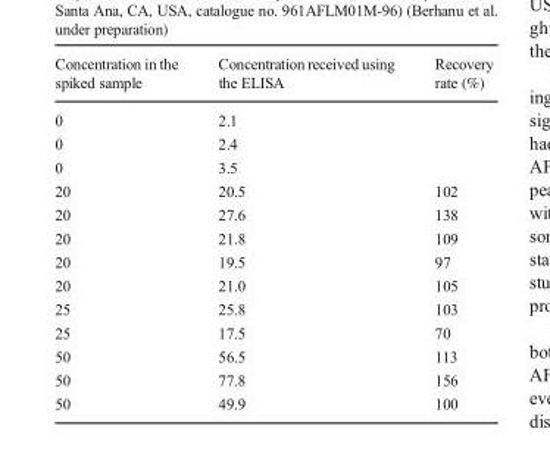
<table><thead><tr><td>Concentration in the spiked sample</td><td>Concentration received using the ELISA</td><td>Recovery rate (%)</td></tr></thead><tbody><tr><td>0</td><td>2.1</td><td></td></tr><tr><td>0</td><td>2.4</td><td></td></tr><tr><td>0</td><td>3.5</td><td></td></tr><tr><td>20</td><td>20.5</td><td>102</td></tr><tr><td>20</td><td>27.6</td><td>138</td></tr><tr><td>20</td><td>21.8</td><td>109</td></tr><tr><td>20</td><td>19.5</td><td>97</td></tr><tr><td>20</td><td>21.0</td><td>105</td></tr><tr><td>25</td><td>25.8</td><td>103</td></tr><tr><td>25</td><td>17.5</td><td>70</td></tr><tr><td>50</td><td>56.5</td><td>113</td></tr><tr><td>50</td><td>77.8</td><td>156</td></tr><tr><td>50</td><td>49.9</td><td>100</td></tr></tbody></table>